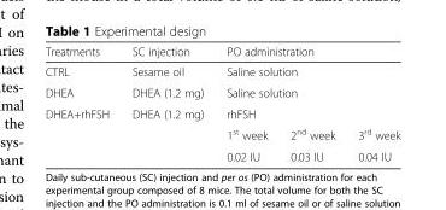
<table><thead><tr><td>Treatments</td><td>SC injection</td><td colspan="3">PO administration</td></tr></thead><tbody><tr><td>CTRL</td><td>Sesame oil</td><td colspan="3">Saline solution</td></tr><tr><td>DHEA</td><td>DHEA (1.2 mg)</td><td colspan="3">Saline solution</td></tr><tr><td rowspan="3">DHEA+rhFSH</td><td rowspan="3">DHEA (1.2 mg)</td><td colspan="3">rhFSH</td></tr><tr><td>1<sup>st</sup> week</td><td>2<sup>nd</sup> week</td><td>3<sup>rd</sup> week</td></tr><tr><td>0.02 IU</td><td>0.03 IU</td><td>0.04 IU</td></tr></tbody></table>